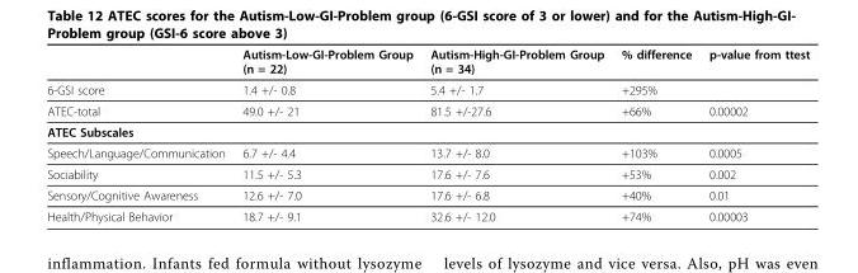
<table><thead><tr><td></td><td>Autism-Low-GI-Problem Group (n = 22)</td><td>Autism-High-GI-Problem Group (n = 34)</td><td>% difference</td><td>p-value from ttest</td></tr></thead><tbody><tr><td>6-GSI score</td><td>1.4 +/- 0.8</td><td>5.4 +/- 1.7</td><td>+295%</td><td></td></tr><tr><td>ATEC-total</td><td>49.0 +/- 21</td><td>81.5 +/-27.6</td><td>+66%</td><td>0.00002</td></tr><tr><td colspan="5">ATEC Subscales</td></tr><tr><td>Speech/Language/Communication</td><td>6.7 +/- 4.4</td><td>13.7 +/- 8.0</td><td>+103%</td><td>0.0005</td></tr><tr><td>Sociability</td><td>11.5 +/- 5.3</td><td>17.6 +/- 7.6</td><td>+53%</td><td>0.002</td></tr><tr><td>Sensory/Cognitive Awareness</td><td>12.6 +/- 7.0</td><td>17.6 +/- 6.8</td><td>+40%</td><td>0.01</td></tr><tr><td>Health/Physical Behavior</td><td>18.7 +/- 9.1</td><td>32.6 +/- 12.0</td><td>+74%</td><td>0.00003</td></tr></tbody></table>